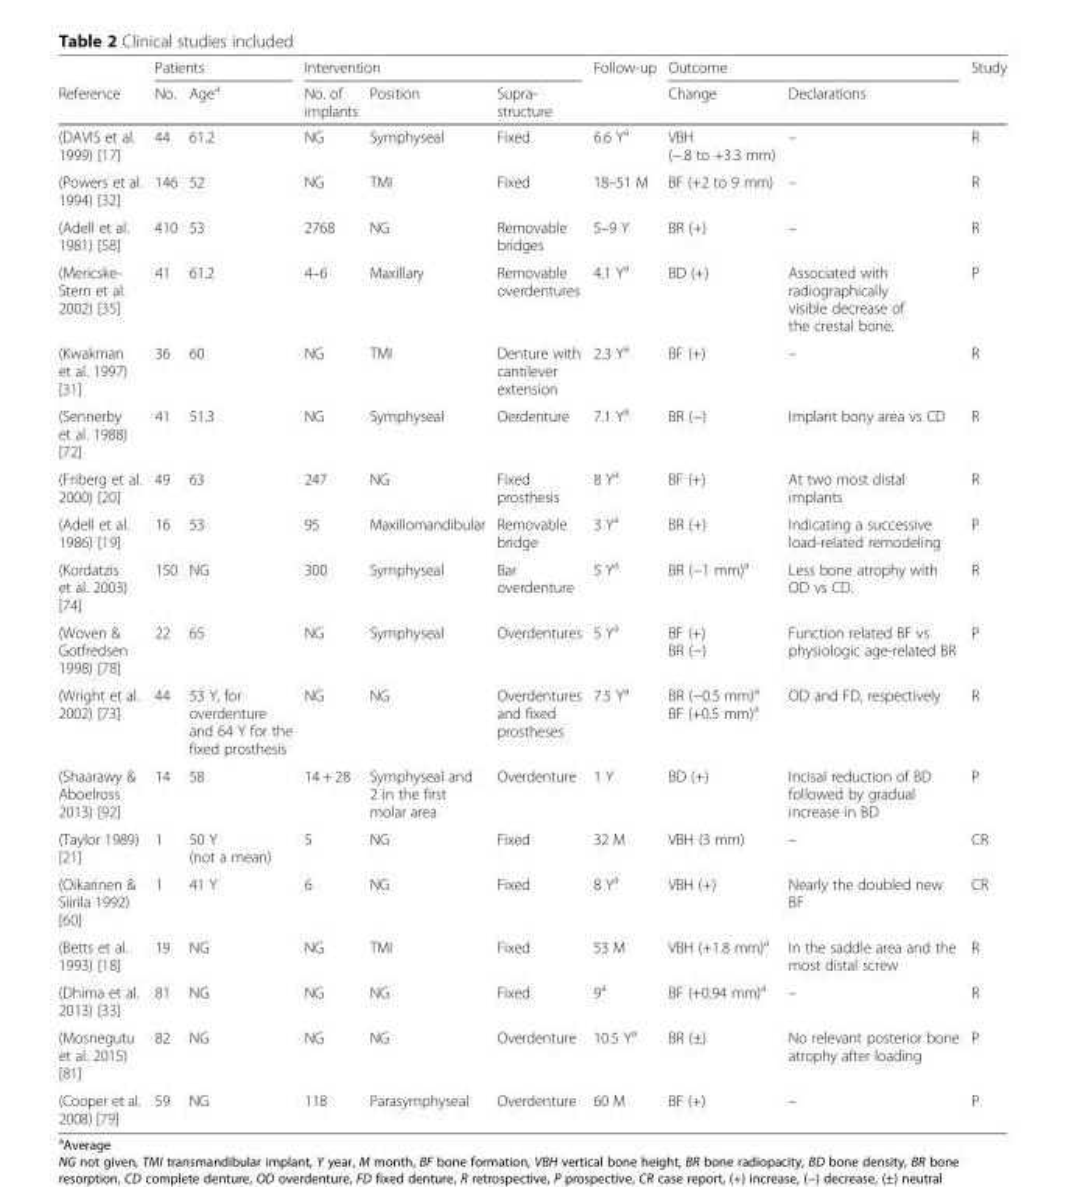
<table><thead><tr><td rowspan="2">Reference</td><td colspan="2">Patients</td><td colspan="3">Intervention</td><td rowspan="2">Follow-up</td><td colspan="2">Outcome</td><td rowspan="2">Study</td></tr><tr><td>No.</td><td>Age<sup>a</sup></td><td>No. of implants</td><td>Position</td><td>Supra- structure</td><td>Change</td><td>Declarations</td></tr></thead><tbody><tr><td>(DAVIS et al. 1999) [17]</td><td>44</td><td>61.2</td><td>NG</td><td>Symphyseal</td><td>Fixed</td><td>6.6 Y<sup>a</sup></td><td>VBH (−.8 to +3.3 mm)</td><td>–</td><td>R</td></tr><tr><td>(Powers et al. 1994) [32]</td><td>146</td><td>52</td><td>NG</td><td>TMI</td><td>Fixed</td><td>18–51 M</td><td>BF (+2 to 9 mm)</td><td>–</td><td>R</td></tr><tr><td>(Adell et al. 1981) [58]</td><td>410</td><td>53</td><td>2768</td><td>NG</td><td>Removable bridges</td><td>5–9 Y</td><td>BR (+)</td><td>–</td><td>R</td></tr><tr><td>(Mericske- Stern et al. 2002) [35]</td><td>41</td><td>61.2</td><td>4–6</td><td>Maxillary</td><td>Removable overdentures</td><td>4.1 Y<sup>a</sup></td><td>BD (+)</td><td>Associated with radiographically visible decrease of the crestal bone.</td><td>P</td></tr><tr><td>(Kwakman et al. 1997) [31]</td><td>36</td><td>60</td><td>NG</td><td>TMI</td><td>Denture with cantilever extension</td><td>2.3 Y<sup>a</sup></td><td>BF (+)</td><td>–</td><td>R</td></tr><tr><td>(Sennerby et al. 1988) [72]</td><td>41</td><td>51.3</td><td>NG</td><td>Symphyseal</td><td>Oerdenture</td><td>7.1 Y<sup>a</sup></td><td>BR (−)</td><td>Implant bony area vs CD</td><td>R</td></tr><tr><td>(Friberg et al. 2000) [20]</td><td>49</td><td>63</td><td>247</td><td>NG</td><td>Fixed prosthesis</td><td>8 Y<sup>a</sup></td><td>BF (+)</td><td>At two most distal implants</td><td>R</td></tr><tr><td>(Adell et al. 1986) [19]</td><td>16</td><td>53</td><td>95</td><td>Maxillomandibular</td><td>Removable bridge</td><td>3 Y<sup>a</sup></td><td>BR (+)</td><td>Indicating a successive load-related remodeling</td><td>P</td></tr><tr><td>(Kordatzis et al. 2003) [74]</td><td>150</td><td>NG</td><td>300</td><td>Symphyseal</td><td>Bar overdenture</td><td>5 Y<sup>a</sup></td><td>BR (−1 mm)<sup>a</sup></td><td>Less bone atrophy with OD vs CD.</td><td>R</td></tr><tr><td>(Woven &amp; Gotfredsen 1998) [78]</td><td>22</td><td>65</td><td>NG</td><td>Symphyseal</td><td>Overdentures</td><td>5 Y<sup>a</sup></td><td>BF (+) BR (−)</td><td>Function related BF vs physiologic age-related BR</td><td>P</td></tr><tr><td>(Wright et al. 2002) [73]</td><td>44</td><td>53 Y, for overdenture and 64 Y for the fixed prosthesis</td><td>NG</td><td>NG</td><td>Overdentures and fixed prostheses</td><td>7.5 Y<sup>a</sup></td><td>BR (−0.5 mm)<sup>a</sup> BF (+0.5 mm)<sup>a</sup></td><td>OD and FD, respectively</td><td>R</td></tr><tr><td>(Shaarawy &amp; Aboelross 2013) [92]</td><td>14</td><td>58</td><td>14 + 28</td><td>Symphyseal and 2 in the first molar area</td><td>Overdenture</td><td>1 Y</td><td>BD (+)</td><td>Incisal reduction of BD followed by gradual increase in BD</td><td>P</td></tr><tr><td>(Taylor 1989) [21]</td><td>1</td><td>50 Y (not a mean)</td><td>5</td><td>NG</td><td>Fixed</td><td>32 M</td><td>VBH (3 mm)</td><td>–</td><td>CR</td></tr><tr><td>(Oikarinen &amp; Siirila 1992) [60]</td><td>1</td><td>41 Y</td><td>6</td><td>NG</td><td>Fixed</td><td>8 Y<sup>a</sup></td><td>VBH (+)</td><td>Nearly the doubled new BF</td><td>CR</td></tr><tr><td>(Betts et al. 1993) [18]</td><td>19</td><td>NG</td><td>NG</td><td>TMI</td><td>Fixed</td><td>53 M</td><td>VBH (+1.8 mm)<sup>a</sup></td><td>In the saddle area and the most distal screw</td><td>R</td></tr><tr><td>(Dhima et al. 2013) [33]</td><td>81</td><td>NG</td><td>NG</td><td>NG</td><td>Fixed</td><td>9<sup>a</sup></td><td>BF (+0.94 mm)<sup>a</sup></td><td>–</td><td>R</td></tr><tr><td>(Mosnegutu et al. 2015) [81]</td><td>82</td><td>NG</td><td>NG</td><td>NG</td><td>Overdenture</td><td>10.5 Y<sup>a</sup></td><td>BR (±)</td><td>No relevant posterior bone atrophy after loading</td><td>P</td></tr><tr><td>(Cooper et al. 2008) [79]</td><td>59</td><td>NG</td><td>118</td><td>Parasymphyseal</td><td>Overdenture</td><td>60 M</td><td>BF (+)</td><td>–</td><td>P</td></tr></tbody></table>